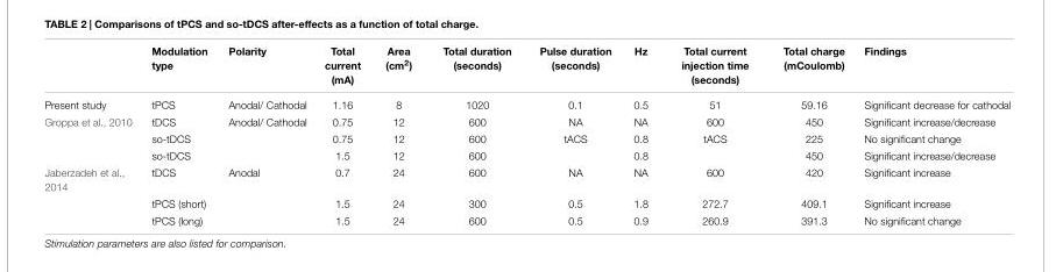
<table><thead><tr><td></td><td>Modulation type</td><td>Polarity</td><td>Total current (mA)</td><td>Area (cm<sup>2</sup>)</td><td>Total duration (seconds)</td><td>Pulse duration (seconds)</td><td>Hz</td><td>Total current injection time (seconds)</td><td>Total charge (mCoulomb)</td><td>Findings</td></tr></thead><tbody><tr><td>Present study</td><td>tPCS</td><td>Anodal/ Cathodal</td><td>1.16</td><td>8</td><td>1020</td><td>0.1</td><td>0.5</td><td>51</td><td>59.16</td><td>Significant decrease for cathodal</td></tr><tr><td rowspan="3">Groppa et al., 2010</td><td>tDCS</td><td>Anodal/ Cathodal</td><td>0.75</td><td>12</td><td>600</td><td>NA</td><td>NA</td><td>600</td><td>450</td><td>Significant increase/decrease</td></tr><tr><td>so-tDCS</td><td></td><td>0.75</td><td>12</td><td>600</td><td>tACS</td><td>0.8</td><td>tACS</td><td>225</td><td>No significant change</td></tr><tr><td>so-tDCS</td><td></td><td>1.5</td><td>12</td><td>600</td><td></td><td>0.8</td><td></td><td>450</td><td>Significant increase/decrease</td></tr><tr><td rowspan="3">Jaberzadeh et al., 2014</td><td>tDCS</td><td>Anodal</td><td>0.7</td><td>24</td><td>600</td><td>NA</td><td>NA</td><td>600</td><td>420</td><td>Significant increase</td></tr><tr><td>tPCS (short)</td><td></td><td>1.5</td><td>24</td><td>300</td><td>0.5</td><td>1.8</td><td>272.7</td><td>409.1</td><td>Significant increase</td></tr><tr><td>tPCS (long)</td><td></td><td>1.5</td><td>24</td><td>600</td><td>0.5</td><td>0.9</td><td>260.9</td><td>391.3</td><td>No significant change</td></tr></tbody></table>